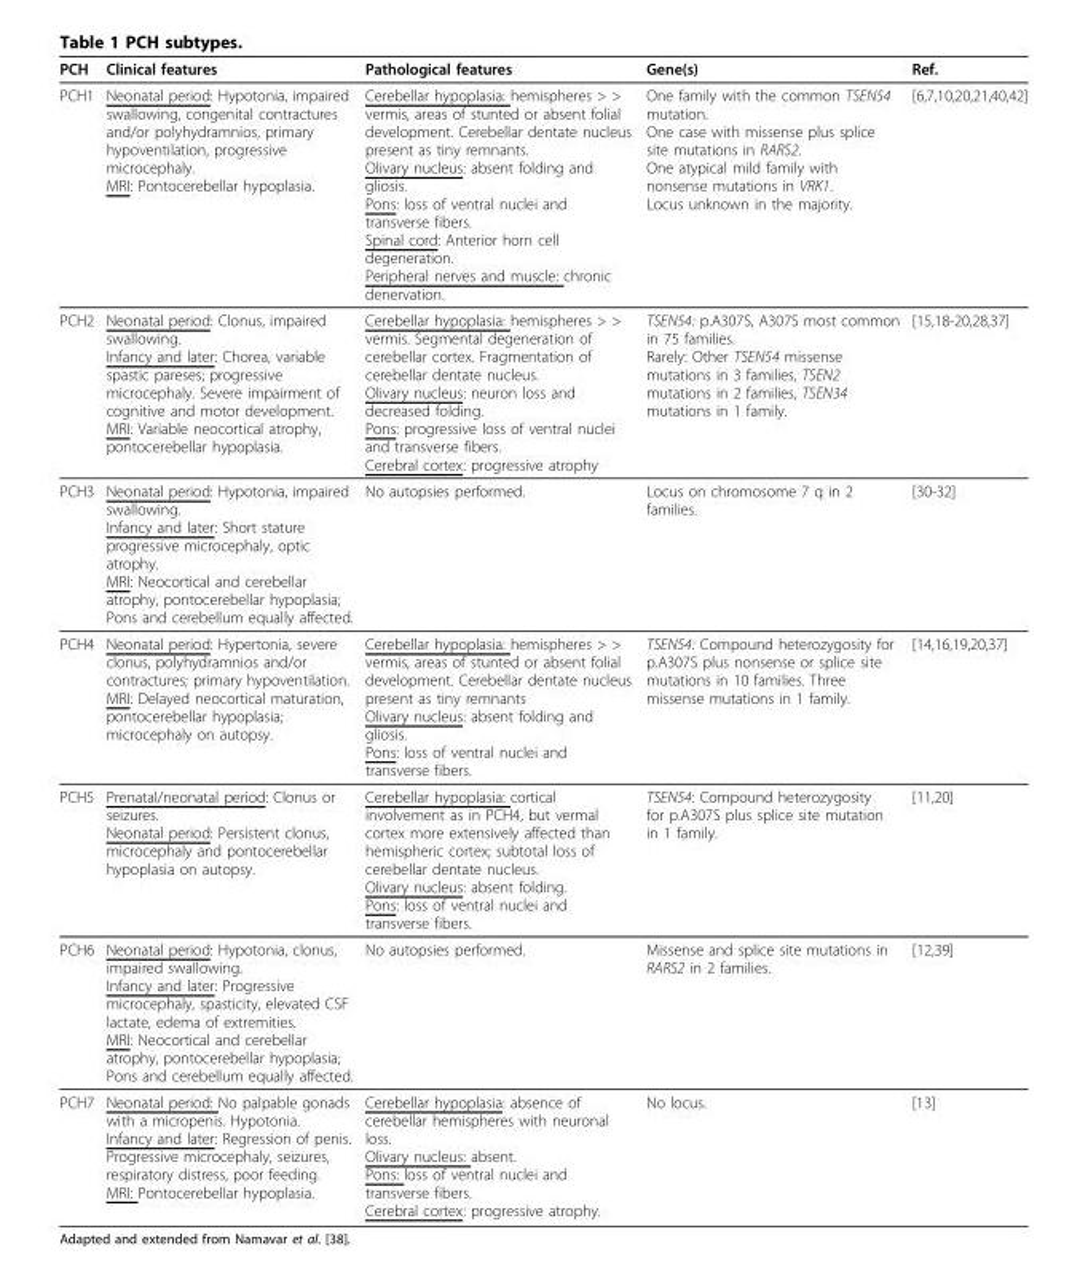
<table><thead><tr><td>PCH</td><td>Clinical features</td><td>Pathological features</td><td>Gene(s)</td><td>Ref.</td></tr></thead><tbody><tr><td>PCH1</td><td>Neonatal period: Hypotonia, impaired swallowing, congenital contractures and/or polyhydramnios, primary hypoventilation, progressive microcephaly. MRI: Pontocerebellar hypoplasia.</td><td>Cerebellar hypoplasia: hemispheres &gt; &gt; vermis, areas of stunted or absent folial development. Cerebellar dentate nucleus present as tiny remnants. Olivary nucleus: absent folding and gliosis. Pons: loss of ventral nuclei and transverse fibers. Spinal cord: Anterior horn cell degeneration. Peripheral nerves and muscle: chronic denervation.</td><td>One family with the common TSEN54 mutation. One case with missense plus splice site mutations in RARS2. One atypical mild family with nonsense mutations in VRK1. Locus unknown in the majority.</td><td>[6,7,10,20,21,40,42]</td></tr><tr><td>PCH2</td><td>Neonatal period: Clonus, impaired swallowing. Infancy and later: Chorea, variable spastic pareses; progressive microcephaly. Severe impairment of cognitive and motor development. MRI: Variable neocortical atrophy, pontocerebellar hypoplasia.</td><td>Cerebellar hypoplasia: hemispheres &gt; &gt; vermis. Segmental degeneration of cerebellar cortex. Fragmentation of cerebellar dentate nucleus. Olivary nucleus: neuron loss and decreased folding. Pons: progressive loss of ventral nuclei and transverse fibers. Cerebral cortex: progressive atrophy</td><td>TSEN54: p.A307S, A307S most common in 75 families. Rarely: Other TSEN54 missense mutations in 3 families, TSEN2 mutations in 2 families, TSEN34 mutations in 1 family.</td><td>[15,18-20,28,37]</td></tr><tr><td>PCH3</td><td>Neonatal period: Hypotonia, impaired swallowing. Infancy and later: Short stature progressive microcephaly, optic atrophy. MRI: Neocortical and cerebellar atrophy, pontocerebellar hypoplasia; Pons and cerebellum equally affected.</td><td>No autopsies performed.</td><td>Locus on chromosome 7 q in 2 families.</td><td>[30-32]</td></tr><tr><td>PCH4</td><td>Neonatal period: Hypertonia, severe clonus, polyhydramnios and/or contractures; primary hypoventilation. MRI: Delayed neocortical maturation, pontocerebellar hypoplasia; microcephaly on autopsy.</td><td>Cerebellar hypoplasia: hemispheres &gt; &gt; vermis, areas of stunted or absent folial development. Cerebellar dentate nucleus present as tiny remnants Olivary nucleus: absent folding and gliosis. Pons: loss of ventral nuclei and transverse fibers.</td><td>TSEN54: Compound heterozygosity for p.A307S plus nonsense or splice site mutations in 10 families. Three missense mutations in 1 family.</td><td>[14,16,19,20,37]</td></tr><tr><td>PCH5</td><td>Prenatal/neonatal period: Clonus or seizures. Neonatal period: Persistent clonus, microcephaly and pontocerebellar hypoplasia on autopsy.</td><td>Cerebellar hypoplasia: cortical involvement as in PCH4, but vermal cortex more extensively affected than hemispheric cortex; subtotal loss of cerebellar dentate nucleus. Olivary nucleus: absent folding. Pons: loss of ventral nuclei and transverse fibers.</td><td>TSEN54: Compound heterozygosity for p.A307S plus splice site mutation in 1 family.</td><td>[11,20]</td></tr><tr><td>PCH6</td><td>Neonatal period: Hypotonia, clonus, impaired swallowing. Infancy and later: Progressive microcephaly, spasticity, elevated CSF lactate, edema of extremities. MRI: Neocortical and cerebellar atrophy, pontocerebellar hypoplasia; Pons and cerebellum equally affected.</td><td>No autopsies performed.</td><td>Missense and splice site mutations in RARS2 in 2 families.</td><td>[12,39]</td></tr><tr><td>PCH7</td><td>Neonatal period: No palpable gonads with a micropenis. Hypotonia. Infancy and later: Regression of penis. Progressive microcephaly, seizures, respiratory distress, poor feeding. MRI: Pontocerebellar hypoplasia.</td><td>Cerebellar hypoplasia: absence of cerebellar hemispheres with neuronal loss. Olivary nucleus: absent. Pons: loss of ventral nuclei and transverse fibers. Cerebral cortex: progressive atrophy.</td><td>No locus.</td><td>[13]</td></tr></tbody></table>